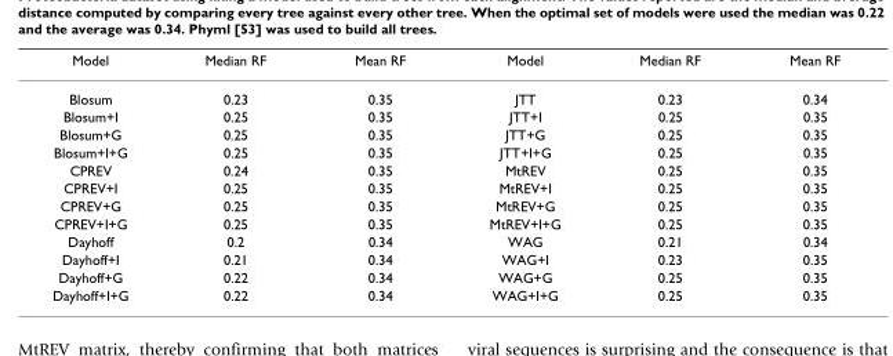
<table><thead><tr><td>Model</td><td>Median RF</td><td>Mean RF</td><td>Model</td><td>Median RF</td><td>Mean RF</td></tr></thead><tbody><tr><td>Blosum</td><td>0.23</td><td>0.35</td><td>JTT</td><td>0.23</td><td>0.34</td></tr><tr><td>Blosum+I</td><td>0.25</td><td>0.35</td><td>JTT+I</td><td>0.25</td><td>0.35</td></tr><tr><td>Blosum+G</td><td>0.25</td><td>0.35</td><td>JTT+G</td><td>0.25</td><td>0.35</td></tr><tr><td>Blosum+I+G</td><td>0.25</td><td>0.35</td><td>JTT+I+G</td><td>0.25</td><td>0.35</td></tr><tr><td>CPREV</td><td>0.24</td><td>0.35</td><td>MtREV</td><td>0.25</td><td>0.35</td></tr><tr><td>CPREV+I</td><td>0.25</td><td>0.35</td><td>MtREV+I</td><td>0.25</td><td>0.35</td></tr><tr><td>CPREV+G</td><td>0.25</td><td>0.35</td><td>MtREV+G</td><td>0.25</td><td>0.35</td></tr><tr><td>CPREV+I+G</td><td>0.25</td><td>0.35</td><td>MtREV+I+G</td><td>0.25</td><td>0.35</td></tr><tr><td>Dayhoff</td><td>0.2</td><td>0.34</td><td>WAG</td><td>0.21</td><td>0.34</td></tr><tr><td>Dayhoff+I</td><td>0.21</td><td>0.34</td><td>WAG+I</td><td>0.23</td><td>0.35</td></tr><tr><td>Dayhoff+G</td><td>0.22</td><td>0.34</td><td>WAG+G</td><td>0.25</td><td>0.35</td></tr><tr><td>Dayhoff+I+G</td><td>0.22</td><td>0.34</td><td>WAG+I+G</td><td>0.25</td><td>0.35</td></tr></tbody></table>